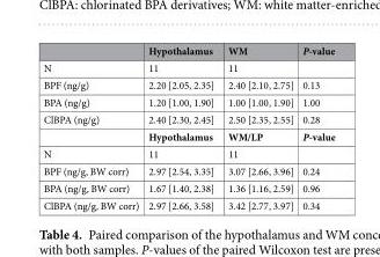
<table><thead><tr><td></td><td>Hypothalamus</td><td>WM</td><td>P-value</td></tr></thead><tbody><tr><td>N</td><td>11</td><td>11</td><td></td></tr><tr><td>BPF (ng/g)</td><td>2.20 [2.05, 2.35]</td><td>2.40 [2.10, 2.75]</td><td>0.13</td></tr><tr><td>BPA (ng/g)</td><td>1.20 [1.00, 1.90]</td><td>1.00 [1.00, 1.90]</td><td>1.00</td></tr><tr><td rowspan="2">ClBPA (ng/g)</td><td>2.40 [2.30, 2.45]</td><td>2.50 [2.35, 2.55]</td><td>0.28</td></tr><tr><td>Hypothalamus</td><td>WM/LP</td><td>P-value</td></tr><tr><td>N</td><td>11</td><td>11</td><td></td></tr><tr><td>BPF (ng/g, BW corr)</td><td>2.97 [2.54, 3.35]</td><td>3.07 [2.66, 3.96]</td><td>0.24</td></tr><tr><td>BPA (ng/g, BW corr)</td><td>1.67 [1.40, 2.38]</td><td>1.36 [1.16, 2.59]</td><td>0.96</td></tr><tr><td>ClBPA (ng/g, BW corr)</td><td>2.97 [2.66, 3.58]</td><td>3.42 [2.77, 3.97]</td><td>0.34</td></tr></tbody></table>